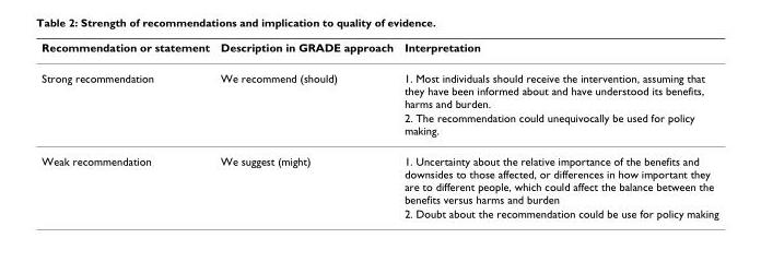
<table><thead><tr><td>Recommendation or statement</td><td>Description in GRADE approach</td><td>Interpretation</td></tr></thead><tbody><tr><td rowspan="2">Strong recommendation</td><td>We recommend (should)</td><td>1. Most individuals should receive the intervention, assuming that they have been informed about and have understood its benefits, harms and burden.</td></tr><tr><td></td><td>2. The recommendation could unequivocally be used for policy making.</td></tr><tr><td rowspan="2">Weak recommendation</td><td>We suggest (might)</td><td>1. Uncertainty about the relative importance of the benefits and downsides to those affected, or differences in how important they are to different people, which could affect the balance between the benefits versus harms and burden</td></tr><tr><td></td><td>2. Doubt about the recommendation could be use for policy making</td></tr></tbody></table>